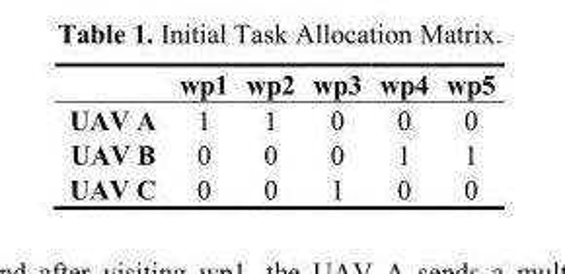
<table><thead><tr><td></td><td>wp1</td><td>wp2</td><td>wp3</td><td>wp4</td><td>wp5</td></tr></thead><tbody><tr><td>UAV A</td><td>1</td><td>1</td><td>0</td><td>0</td><td>0</td></tr><tr><td>UAV B</td><td>0</td><td>0</td><td>0</td><td>1</td><td>1</td></tr><tr><td>UAV C</td><td>0</td><td>0</td><td>1</td><td>0</td><td>0</td></tr></tbody></table>